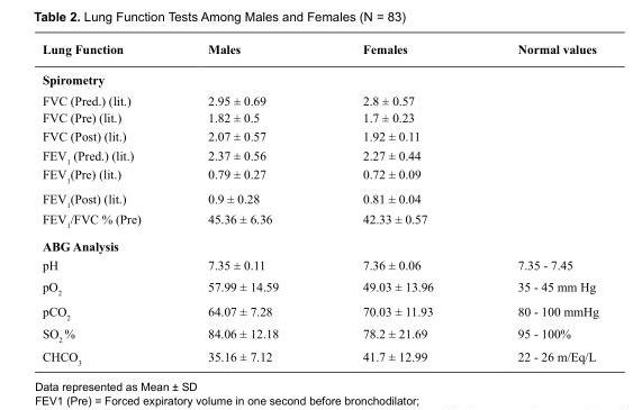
<table><thead><tr><td>Lung Function</td><td>Males</td><td>Females</td><td>Normal values</td></tr></thead><tbody><tr><td colspan="4">Spirometry</td></tr><tr><td>FVC (Pred.) (lit.)</td><td>2.95 ± 0.69</td><td>2.8 ± 0.57</td><td></td></tr><tr><td>FVC (Pre) (lit.)</td><td>1.82 ± 0.5</td><td>1.7 ± 0.23</td><td></td></tr><tr><td>FVC (Post) (lit.)</td><td>2.07 ± 0.57</td><td>1.92 ± 0.11</td><td></td></tr><tr><td>FEV<sub>1</sub> (Pred.) (lit.)</td><td>2.37 ± 0.56</td><td>2.27 ± 0.44</td><td></td></tr><tr><td>FEV<sub>1</sub>(Pre) (lit.)</td><td>0.79 ± 0.27</td><td>0.72 ± 0.09</td><td></td></tr><tr><td>FEV<sub>1</sub>(Post) (lit.)</td><td>0.9 ± 0.28</td><td>0.81 ± 0.04</td><td></td></tr><tr><td>FEV<sub>1</sub>/FVC % (Pre)</td><td>45.36 ± 6.36</td><td>42.33 ± 0.57</td><td></td></tr><tr><td colspan="4">ABG Analysis</td></tr><tr><td>pH</td><td>7.35 ± 0.11</td><td>7.36 ± 0.06</td><td>7.35 - 7.45</td></tr><tr><td>pO<sub>2</sub></td><td>57.99 ± 14.59</td><td>49.03 ± 13.96</td><td>35 - 45 mm Hg</td></tr><tr><td>pCO<sub>2</sub></td><td>64.07 ± 7.28</td><td>70.03 ± 11.93</td><td>80 - 100 mmHg</td></tr><tr><td>SO<sub>2</sub> %</td><td>84.06 ± 12.18</td><td>78.2 ± 21.69</td><td>95 - 100%</td></tr><tr><td>CHCO<sub>3</sub></td><td>35.16 ± 7.12</td><td>41.7 ± 12.99</td><td>22 - 26 m/Eq/L</td></tr></tbody></table>